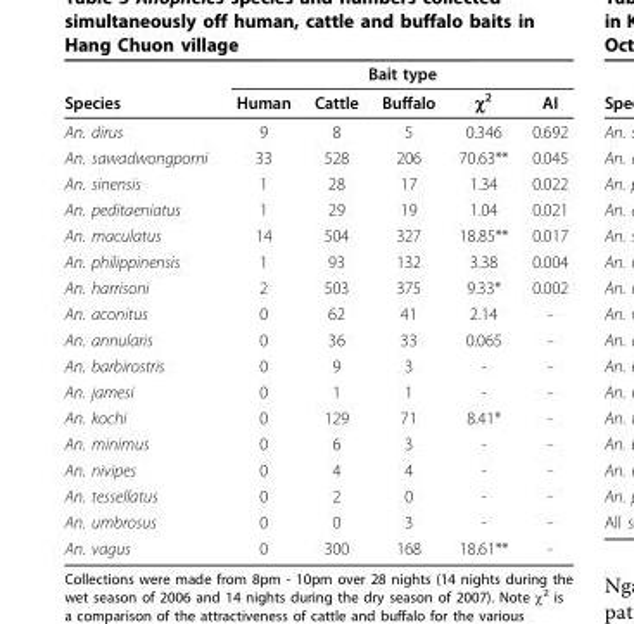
<table><thead><tr><td rowspan="2">Species</td><td colspan="5">Bait type</td></tr><tr><td>Human</td><td>Cattle</td><td>Buffalo</td><td>χ<sup>2</sup></td><td>AI</td></tr></thead><tbody><tr><td>An. dirus</td><td>9</td><td>8</td><td>5</td><td>0.346</td><td>0.692</td></tr><tr><td>An. sawadwongporni</td><td>33</td><td>528</td><td>206</td><td>70.63**</td><td>0.045</td></tr><tr><td>An. sinensis</td><td>1</td><td>28</td><td>17</td><td>1.34</td><td>0.022</td></tr><tr><td>An. peditaeniatus</td><td>1</td><td>29</td><td>19</td><td>1.04</td><td>0.021</td></tr><tr><td>An. maculatus</td><td>14</td><td>504</td><td>327</td><td>18.85**</td><td>0.017</td></tr><tr><td>An. philippinensis</td><td>1</td><td>93</td><td>132</td><td>3.38</td><td>0.004</td></tr><tr><td>An. harrisoni</td><td>2</td><td>503</td><td>375</td><td>9.33*</td><td>0.002</td></tr><tr><td>An. aconitus</td><td>0</td><td>62</td><td>41</td><td>2.14</td><td>-</td></tr><tr><td>An. annularis</td><td>0</td><td>36</td><td>33</td><td>0.065</td><td>-</td></tr><tr><td>An. barbirostris</td><td>0</td><td>9</td><td>3</td><td>-</td><td>-</td></tr><tr><td>An. jamesi</td><td>0</td><td>1</td><td>1</td><td>-</td><td>-</td></tr><tr><td>An. kochi</td><td>0</td><td>129</td><td>71</td><td>8.41*</td><td>-</td></tr><tr><td>An. minimus</td><td>0</td><td>6</td><td>3</td><td>-</td><td>-</td></tr><tr><td>An. nivipes</td><td>0</td><td>4</td><td>4</td><td>-</td><td>-</td></tr><tr><td>An. tessellatus</td><td>0</td><td>2</td><td>0</td><td>-</td><td>-</td></tr><tr><td>An. umbrosus</td><td>0</td><td>0</td><td>3</td><td>-</td><td>-</td></tr><tr><td>An. vagus</td><td>0</td><td>300</td><td>168</td><td>18.61**</td><td>-</td></tr></tbody></table>